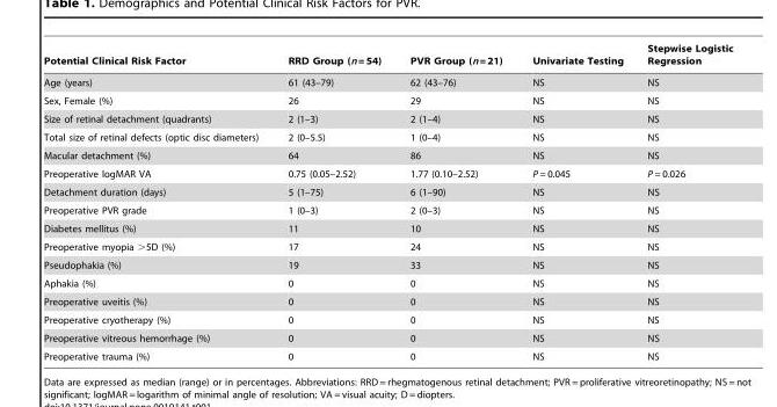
<table><thead><tr><td>Potential Clinical Risk Factor</td><td>RRD Group (n = 54)</td><td>PVR Group (n = 21)</td><td>Univariate Testing</td><td>Stepwise Logistic Regression</td></tr></thead><tbody><tr><td>Age (years)</td><td>61 (43–79)</td><td>62 (43–76)</td><td>NS</td><td>NS</td></tr><tr><td>Sex, Female (%)</td><td>26</td><td>29</td><td>NS</td><td>NS</td></tr><tr><td>Size of retinal detachment (quadrants)</td><td>2 (1–3)</td><td>2 (1–4)</td><td>NS</td><td>NS</td></tr><tr><td>Total size of retinal defects (optic disc diameters)</td><td>2 (0–5.5)</td><td>1 (0–4)</td><td>NS</td><td>NS</td></tr><tr><td>Macular detachment (%)</td><td>64</td><td>86</td><td>NS</td><td>NS</td></tr><tr><td>Preoperative logMAR VA</td><td>0.75 (0.05–2.52)</td><td>1.77 (0.10–2.52)</td><td>P = 0.045</td><td>P = 0.026</td></tr><tr><td>Detachment duration (days)</td><td>5 (1–75)</td><td>6 (1–90)</td><td>NS</td><td>NS</td></tr><tr><td>Preoperative PVR grade</td><td>1 (0–3)</td><td>2 (0–3)</td><td>NS</td><td>NS</td></tr><tr><td>Diabetes mellitus (%)</td><td>11</td><td>10</td><td>NS</td><td>NS</td></tr><tr><td>Preoperative myopia &gt;5D (%)</td><td>17</td><td>24</td><td>NS</td><td>NS</td></tr><tr><td>Pseudophakia (%)</td><td>19</td><td>33</td><td>NS</td><td>NS</td></tr><tr><td>Aphakia (%)</td><td>0</td><td>0</td><td>NS</td><td>NS</td></tr><tr><td>Preoperative uveitis (%)</td><td>0</td><td>0</td><td>NS</td><td>NS</td></tr><tr><td>Preoperative cryotherapy (%)</td><td>0</td><td>0</td><td>NS</td><td>NS</td></tr><tr><td>Preoperative vitreous hemorrhage (%)</td><td>0</td><td>0</td><td>NS</td><td>NS</td></tr><tr><td>Preoperative trauma (%)</td><td>0</td><td>0</td><td>NS</td><td>NS</td></tr></tbody></table>